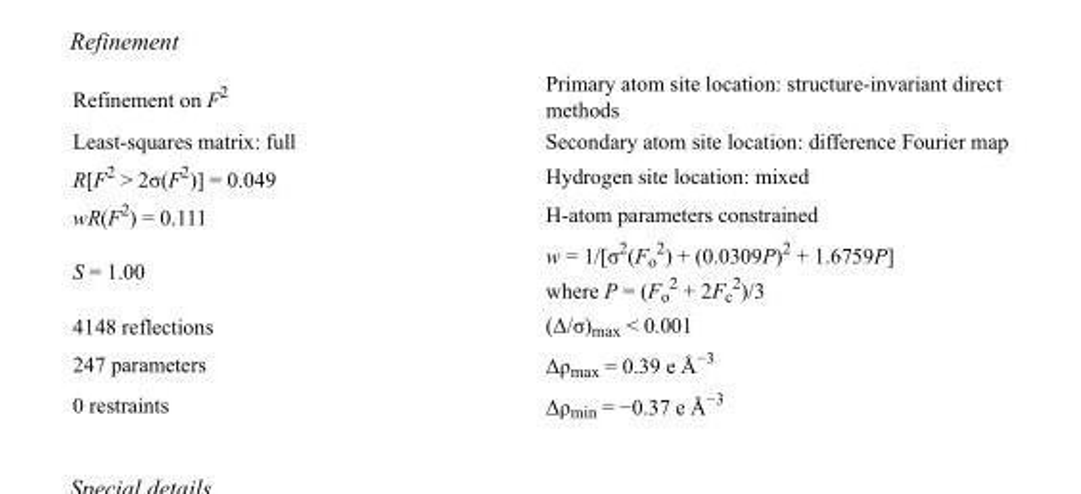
<table><tbody><tr><td>Refinement on F<sup>2</sup></td><td>Primary atom site location: structure-invariant direct methods</td></tr><tr><td>Least-squares matrix: full</td><td>Secondary atom site location: difference Fourier map</td></tr><tr><td>R[F<sup>2</sup> &gt; 2σ(F<sup>2</sup>)] = 0.049</td><td>Hydrogen site location: mixed</td></tr><tr><td>wR(F<sup>2</sup>) = 0.111</td><td>H-atom parameters constrained</td></tr><tr><td>S = 1.00</td><td>w = 1/[σ<sup>2</sup>(F<sub>o</sub> <sup>2</sup>) + (0.0309P)<sup>2</sup> + 1.6759P] where P = (F<sub>o</sub> <sup>2</sup> + 2F<sub>c</sub> <sup>2</sup>)/3</td></tr><tr><td>4148 reflections</td><td>(Δ/σ)<sub>max</sub> &lt; 0.001</td></tr><tr><td>247 parameters</td><td>Δρ<sub>max</sub> = 0.39 e Å<sup>−3</sup></td></tr><tr><td>0 restraints</td><td>Δρ<sub>min</sub> = −0.37 e Å<sup>−3</sup></td></tr></tbody></table>